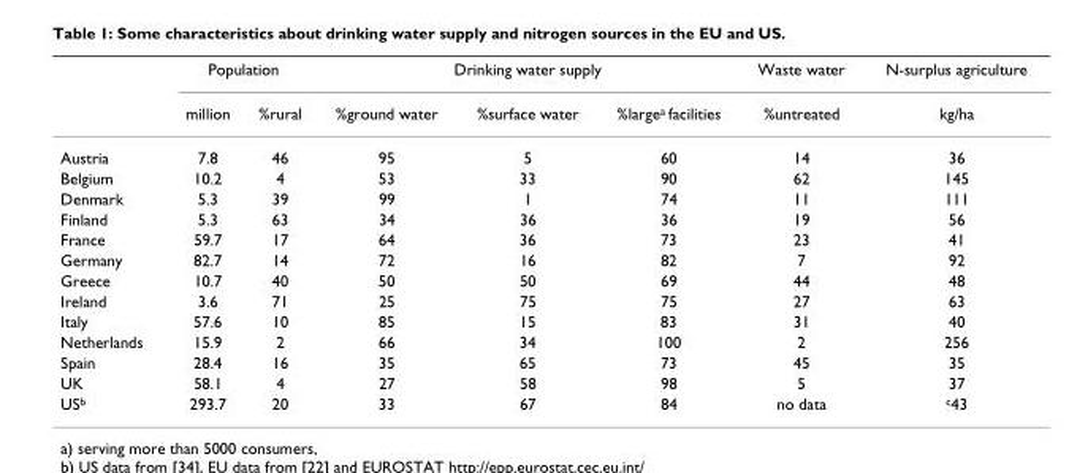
<table><thead><tr><td rowspan="2"></td><td colspan="2">Population</td><td colspan="3">Drinking water supply</td><td rowspan="2">Waste water %untreated</td><td rowspan="2">N-surplus agriculture kg/ha</td></tr><tr><td>million</td><td>%rural</td><td>%ground water</td><td>%surface water</td><td>%large<sup>a</sup> facilities</td></tr></thead><tbody><tr><td>Austria</td><td>7.8</td><td>46</td><td>95</td><td>5</td><td>60</td><td>14</td><td>36</td></tr><tr><td>Belgium</td><td>10.2</td><td>4</td><td>53</td><td>33</td><td>90</td><td>62</td><td>145</td></tr><tr><td>Denmark</td><td>5.3</td><td>39</td><td>99</td><td>1</td><td>74</td><td>11</td><td>111</td></tr><tr><td>Finland</td><td>5.3</td><td>63</td><td>34</td><td>36</td><td>36</td><td>19</td><td>56</td></tr><tr><td>France</td><td>59.7</td><td>17</td><td>64</td><td>36</td><td>73</td><td>23</td><td>41</td></tr><tr><td>Germany</td><td>82.7</td><td>14</td><td>72</td><td>16</td><td>82</td><td>7</td><td>92</td></tr><tr><td>Greece</td><td>10.7</td><td>40</td><td>50</td><td>50</td><td>69</td><td>44</td><td>48</td></tr><tr><td>Ireland</td><td>3.6</td><td>71</td><td>25</td><td>75</td><td>75</td><td>27</td><td>63</td></tr><tr><td>Italy</td><td>57.6</td><td>10</td><td>85</td><td>15</td><td>83</td><td>31</td><td>40</td></tr><tr><td>Netherlands</td><td>15.9</td><td>2</td><td>66</td><td>34</td><td>100</td><td>2</td><td>256</td></tr><tr><td>Spain</td><td>28.4</td><td>16</td><td>35</td><td>65</td><td>73</td><td>45</td><td>35</td></tr><tr><td>UK</td><td>58.1</td><td>4</td><td>27</td><td>58</td><td>98</td><td>5</td><td>37</td></tr><tr><td>US<sup>b</sup></td><td>293.7</td><td>20</td><td>33</td><td>67</td><td>84</td><td>no data</td><td><sup>c</sup>43</td></tr></tbody></table>